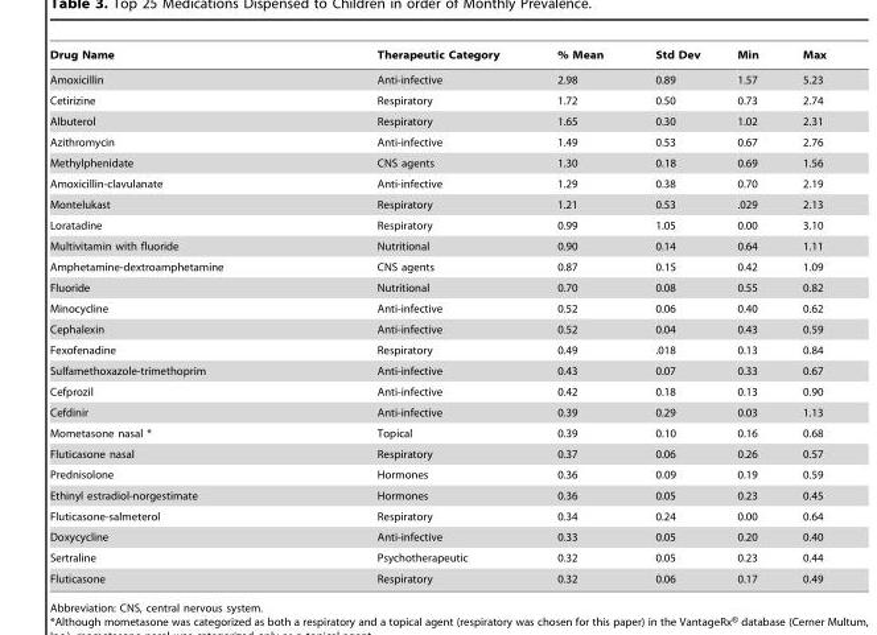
<table><thead><tr><td>Drug Name</td><td>Therapeutic Category</td><td>% Mean</td><td>Std Dev</td><td>Min</td><td>Max</td></tr></thead><tbody><tr><td>Amoxicillin</td><td>Anti-infective</td><td>2.98</td><td>0.89</td><td>1.57</td><td>5.23</td></tr><tr><td>Cetirizine</td><td>Respiratory</td><td>1.72</td><td>0.50</td><td>0.73</td><td>2.74</td></tr><tr><td>Albuterol</td><td>Respiratory</td><td>1.65</td><td>0.30</td><td>1.02</td><td>2.31</td></tr><tr><td>Azithromycin</td><td>Anti-infective</td><td>1.49</td><td>0.53</td><td>0.67</td><td>2.76</td></tr><tr><td>Methylphenidate</td><td>CNS agents</td><td>1.30</td><td>0.18</td><td>0.69</td><td>1.56</td></tr><tr><td>Amoxicillin-clavulanate</td><td>Anti-infective</td><td>1.29</td><td>0.38</td><td>0.70</td><td>2.19</td></tr><tr><td>Montelukast</td><td>Respiratory</td><td>1.21</td><td>0.53</td><td>.029</td><td>2.13</td></tr><tr><td>Loratadine</td><td>Respiratory</td><td>0.99</td><td>1.05</td><td>0.00</td><td>3.10</td></tr><tr><td>Multivitamin with fluoride</td><td>Nutritional</td><td>0.90</td><td>0.14</td><td>0.64</td><td>1.11</td></tr><tr><td>Amphetamine-dextroamphetamine</td><td>CNS agents</td><td>0.87</td><td>0.15</td><td>0.42</td><td>1.09</td></tr><tr><td>Fluoride</td><td>Nutritional</td><td>0.70</td><td>0.08</td><td>0.55</td><td>0.82</td></tr><tr><td>Minocycline</td><td>Anti-infective</td><td>0.52</td><td>0.06</td><td>0.40</td><td>0.62</td></tr><tr><td>Cephalexin</td><td>Anti-infective</td><td>0.52</td><td>0.04</td><td>0.43</td><td>0.59</td></tr><tr><td>Fexofenadine</td><td>Respiratory</td><td>0.49</td><td>.018</td><td>0.13</td><td>0.84</td></tr><tr><td>Sulfamethoxazole-trimethoprim</td><td>Anti-infective</td><td>0.43</td><td>0.07</td><td>0.33</td><td>0.67</td></tr><tr><td>Cefprozil</td><td>Anti-infective</td><td>0.42</td><td>0.18</td><td>0.13</td><td>0.90</td></tr><tr><td>Cefdinir</td><td>Anti-infective</td><td>0.39</td><td>0.29</td><td>0.03</td><td>1.13</td></tr><tr><td>Mometasone nasal *</td><td>Topical</td><td>0.39</td><td>0.10</td><td>0.16</td><td>0.68</td></tr><tr><td>Fluticasone nasal</td><td>Respiratory</td><td>0.37</td><td>0.06</td><td>0.26</td><td>0.57</td></tr><tr><td>Prednisolone</td><td>Hormones</td><td>0.36</td><td>0.09</td><td>0.19</td><td>0.59</td></tr><tr><td>Ethinyl estradiol-norgestimate</td><td>Hormones</td><td>0.36</td><td>0.05</td><td>0.23</td><td>0.45</td></tr><tr><td>Fluticasone-salmeterol</td><td>Respiratory</td><td>0.34</td><td>0.24</td><td>0.00</td><td>0.64</td></tr><tr><td>Doxycycline</td><td>Anti-infective</td><td>0.33</td><td>0.05</td><td>0.20</td><td>0.40</td></tr><tr><td>Sertraline</td><td>Psychotherapeutic</td><td>0.32</td><td>0.05</td><td>0.23</td><td>0.44</td></tr><tr><td>Fluticasone</td><td>Respiratory</td><td>0.32</td><td>0.06</td><td>0.17</td><td>0.49</td></tr></tbody></table>